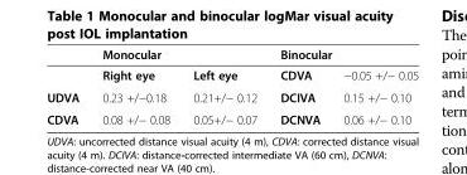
<table><thead><tr><td rowspan="2"></td><td colspan="2">Monocular</td><td colspan="2">Binocular</td></tr><tr><td>Right eye</td><td>Left eye</td><td>CDVA</td><td>−0.05 +/− 0.05</td></tr></thead><tbody><tr><td>UDVA</td><td>0.23 +/−0.18</td><td>0.21+/− 0.12</td><td>DCIVA</td><td>0.15 +/− 0.10</td></tr><tr><td>CDVA</td><td>0.08 +/− 0.08</td><td>0.05+/− 0.07</td><td>DCNVA</td><td>0.06 +/− 0.10</td></tr></tbody></table>